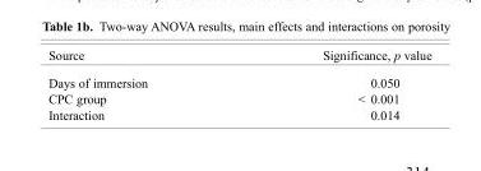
<table><thead><tr><td>Source</td><td>Significance, p value</td></tr></thead><tbody><tr><td>Days of immersion</td><td>0.050</td></tr><tr><td>CPC group</td><td>&lt; 0.001</td></tr><tr><td>Interaction</td><td>0.014</td></tr></tbody></table>